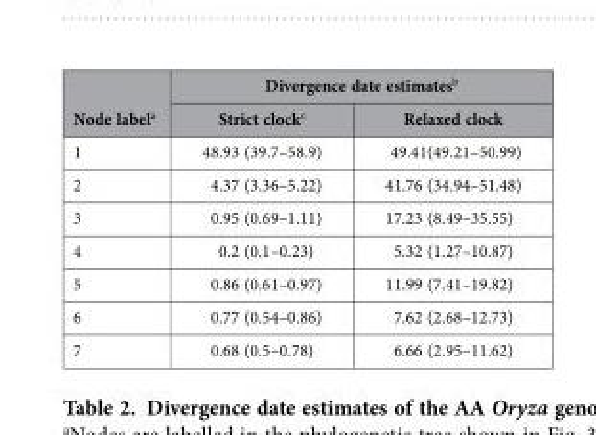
<table><thead><tr><td rowspan="2">Node label<sup>a</sup></td><td colspan="2">Divergence date estimates<sup>b</sup></td></tr><tr><td>Strict clock<sup>c</sup></td><td>Relaxed clock</td></tr></thead><tbody><tr><td>1</td><td>48.93 (39.7–58.9)</td><td>49.41(49.21–50.99)</td></tr><tr><td>2</td><td>4.37 (3.36–5.22)</td><td>41.76 (34.94–51.48)</td></tr><tr><td>3</td><td>0.95 (0.69–1.11)</td><td>17.23 (8.49–35.55)</td></tr><tr><td>4</td><td>0.2 (0.1–0.23)</td><td>5.32 (1.27–10.87)</td></tr><tr><td>5</td><td>0.86 (0.61–0.97)</td><td>11.99 (7.41–19.82)</td></tr><tr><td>6</td><td>0.77 (0.54–0.86)</td><td>7.62 (2.68–12.73)</td></tr><tr><td>7</td><td>0.68 (0.5–0.78)</td><td>6.66 (2.95–11.62)</td></tr></tbody></table>